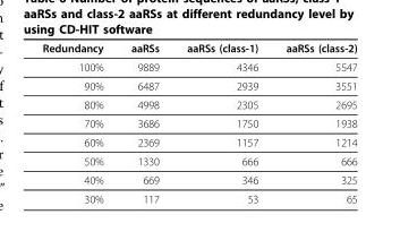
<table><thead><tr><td>Redundancy</td><td>aaRSs</td><td>aaRSs (class-1)</td><td>aaRSs (class-2)</td></tr></thead><tbody><tr><td>100%</td><td>9889</td><td>4346</td><td>5547</td></tr><tr><td>90%</td><td>6487</td><td>2939</td><td>3551</td></tr><tr><td>80%</td><td>4998</td><td>2305</td><td>2695</td></tr><tr><td>70%</td><td>3686</td><td>1750</td><td>1938</td></tr><tr><td>60%</td><td>2369</td><td>1157</td><td>1214</td></tr><tr><td>50%</td><td>1330</td><td>666</td><td>666</td></tr><tr><td>40%</td><td>669</td><td>346</td><td>325</td></tr><tr><td>30%</td><td>117</td><td>53</td><td>65</td></tr></tbody></table>